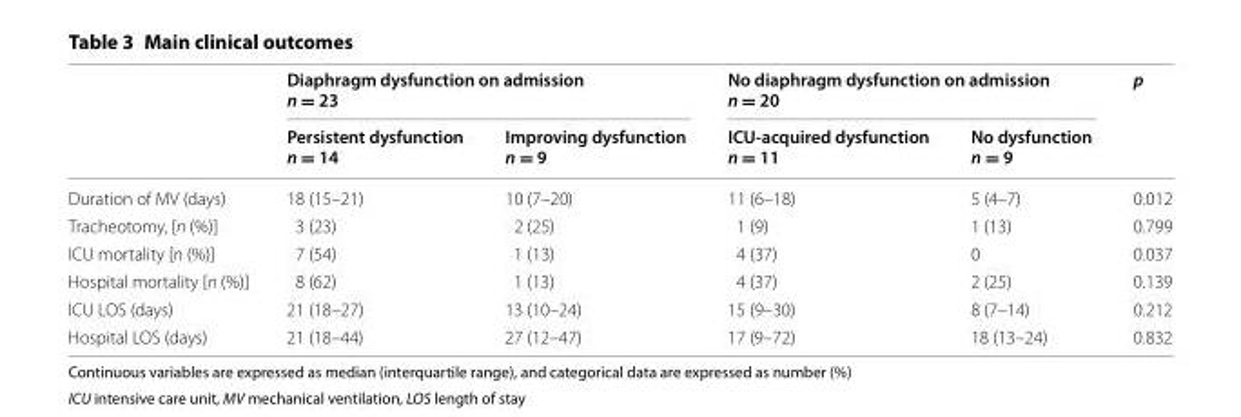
<table><thead><tr><td rowspan="2"></td><td colspan="2">Diaphragm dysfunction on admission n = 23</td><td colspan="2">No diaphragm dysfunction on admission n = 20</td><td rowspan="2">p</td></tr><tr><td>Persistent dysfunction n = 14</td><td>Improving dysfunction n = 9</td><td>ICU-acquired dysfunction n = 11</td><td>No dysfunction n = 9</td></tr></thead><tbody><tr><td>Duration of MV (days)</td><td>18 (15–21)</td><td>10 (7–20)</td><td>11 (6–18)</td><td>5 (4–7)</td><td>0.012</td></tr><tr><td>Tracheotomy, [n (%)]</td><td>3 (23)</td><td>2 (25)</td><td>1 (9)</td><td>1 (13)</td><td>0.799</td></tr><tr><td>ICU mortality [n (%)]</td><td>7 (54)</td><td>1 (13)</td><td>4 (37)</td><td>0</td><td>0.037</td></tr><tr><td>Hospital mortality [n (%)]</td><td>8 (62)</td><td>1 (13)</td><td>4 (37)</td><td>2 (25)</td><td>0.139</td></tr><tr><td>ICU LOS (days)</td><td>21 (18–27)</td><td>13 (10–24)</td><td>15 (9–30)</td><td>8 (7–14)</td><td>0.212</td></tr><tr><td>Hospital LOS (days)</td><td>21 (18–44)</td><td>27 (12–47)</td><td>17 (9–72)</td><td>18 (13–24)</td><td>0.832</td></tr></tbody></table>